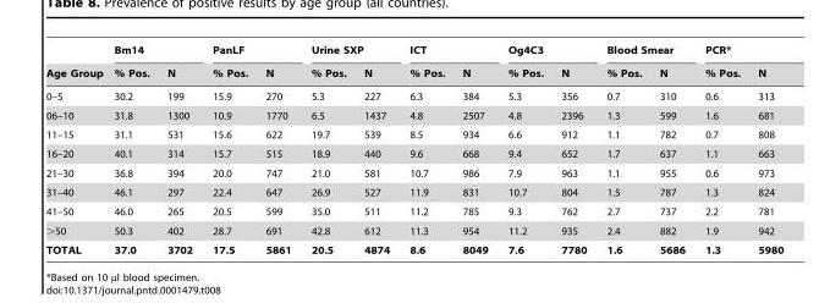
<table><thead><tr><td rowspan="2">Age Group</td><td colspan="2">Bm14</td><td colspan="2">PanLF</td><td colspan="2">Urine SXP</td><td colspan="2">ICT</td><td colspan="2">Og4C3</td><td colspan="2">Blood Smear</td><td colspan="2">PCR*</td></tr><tr><td>% Pos.</td><td>N</td><td>% Pos.</td><td>N</td><td>% Pos.</td><td>N</td><td>% Pos.</td><td>N</td><td>% Pos.</td><td>N</td><td>% Pos.</td><td>N</td><td>% Pos.</td><td>N</td></tr></thead><tbody><tr><td>0–5</td><td>30.2</td><td>199</td><td>15.9</td><td>270</td><td>5.3</td><td>227</td><td>6.3</td><td>384</td><td>5.3</td><td>356</td><td>0.7</td><td>310</td><td>0.6</td><td>313</td></tr><tr><td>06–10</td><td>31.8</td><td>1300</td><td>10.9</td><td>1770</td><td>6.5</td><td>1437</td><td>4.8</td><td>2507</td><td>4.8</td><td>2396</td><td>1.3</td><td>599</td><td>1.6</td><td>681</td></tr><tr><td>11–15</td><td>31.1</td><td>531</td><td>15.6</td><td>622</td><td>19.7</td><td>539</td><td>8.5</td><td>934</td><td>6.6</td><td>912</td><td>1.1</td><td>782</td><td>0.7</td><td>808</td></tr><tr><td>16–20</td><td>40.1</td><td>314</td><td>15.7</td><td>515</td><td>18.9</td><td>440</td><td>9.6</td><td>668</td><td>9.4</td><td>652</td><td>1.7</td><td>637</td><td>1.1</td><td>663</td></tr><tr><td>21–30</td><td>36.8</td><td>394</td><td>20.0</td><td>747</td><td>21.0</td><td>581</td><td>10.7</td><td>986</td><td>7.9</td><td>963</td><td>1.1</td><td>955</td><td>0.6</td><td>973</td></tr><tr><td>31–40</td><td>46.1</td><td>297</td><td>22.4</td><td>647</td><td>26.9</td><td>527</td><td>11.9</td><td>831</td><td>10.7</td><td>804</td><td>1.5</td><td>787</td><td>1.3</td><td>824</td></tr><tr><td>41–50</td><td>46.0</td><td>265</td><td>20.5</td><td>599</td><td>35.0</td><td>511</td><td>11.2</td><td>785</td><td>9.3</td><td>762</td><td>2.7</td><td>737</td><td>2.2</td><td>781</td></tr><tr><td>&gt;50</td><td>50.3</td><td>402</td><td>28.7</td><td>691</td><td>42.8</td><td>612</td><td>11.3</td><td>954</td><td>11.2</td><td>935</td><td>2.4</td><td>882</td><td>1.9</td><td>942</td></tr><tr><td>TOTAL</td><td>37.0</td><td>3702</td><td>17.5</td><td>5861</td><td>20.5</td><td>4874</td><td>8.6</td><td>8049</td><td>7.6</td><td>7780</td><td>1.6</td><td>5686</td><td>1.3</td><td>5980</td></tr></tbody></table>